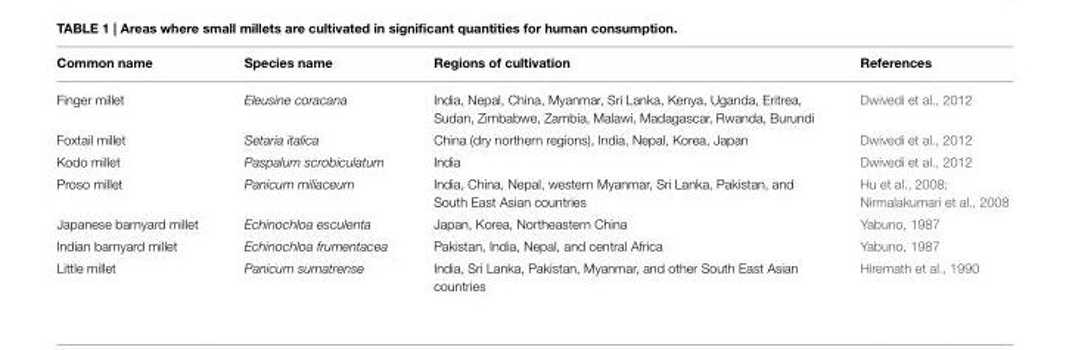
<table><thead><tr><td>Common name</td><td>Species name</td><td>Regions of cultivation</td><td>References</td></tr></thead><tbody><tr><td>Finger millet</td><td>Eleusine coracana</td><td>India, Nepal, China, Myanmar, Sri Lanka, Kenya, Uganda, Eritrea, Sudan, Zimbabwe, Zambia, Malawi, Madagascar, Rwanda, Burundi</td><td>Dwivedi et al., 2012</td></tr><tr><td>Foxtail millet</td><td>Setaria italica</td><td>China (dry northern regions), India, Nepal, Korea, Japan</td><td>Dwivedi et al., 2012</td></tr><tr><td>Kodo millet</td><td>Paspalum scrobiculatum</td><td>India</td><td>Dwivedi et al., 2012</td></tr><tr><td>Proso millet</td><td>Panicum miliaceum</td><td>India, China, Nepal, western Myanmar, Sri Lanka, Pakistan, and South East Asian countries</td><td>Hu et al., 2008; Nirmalakumari et al., 2008</td></tr><tr><td>Japanese barnyard millet</td><td>Echinochloa esculenta</td><td>Japan, Korea, Northeastern China</td><td>Yabuno, 1987</td></tr><tr><td>Indian barnyard millet</td><td>Echinochloa frumentacea</td><td>Pakistan, India, Nepal, and central Africa</td><td>Yabuno, 1987</td></tr><tr><td>Little millet</td><td>Panicum sumatrense</td><td>India, Sri Lanka, Pakistan, Myanmar, and other South East Asian countries</td><td>Hiremath et al., 1990</td></tr></tbody></table>